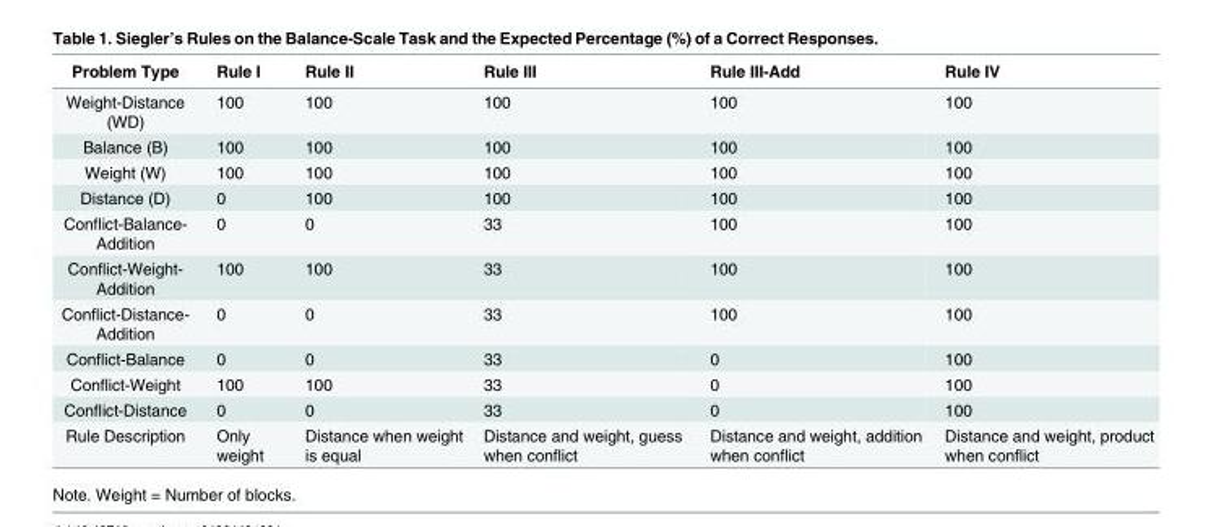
<table><thead><tr><td>Problem Type</td><td>Rule I</td><td>Rule II</td><td>Rule III</td><td>Rule III-Add</td><td>Rule IV</td></tr></thead><tbody><tr><td>Weight-Distance (WD)</td><td>100</td><td>100</td><td>100</td><td>100</td><td>100</td></tr><tr><td>Balance (B)</td><td>100</td><td>100</td><td>100</td><td>100</td><td>100</td></tr><tr><td>Weight (W)</td><td>100</td><td>100</td><td>100</td><td>100</td><td>100</td></tr><tr><td>Distance (D)</td><td>0</td><td>100</td><td>100</td><td>100</td><td>100</td></tr><tr><td>Conflict-Balance- Addition</td><td>0</td><td>0</td><td>33</td><td>100</td><td>100</td></tr><tr><td>Conflict-Weight- Addition</td><td>100</td><td>100</td><td>33</td><td>100</td><td>100</td></tr><tr><td>Conflict-Distance- Addition</td><td>0</td><td>0</td><td>33</td><td>100</td><td>100</td></tr><tr><td>Conflict-Balance</td><td>0</td><td>0</td><td>33</td><td>0</td><td>100</td></tr><tr><td>Conflict-Weight</td><td>100</td><td>100</td><td>33</td><td>0</td><td>100</td></tr><tr><td>Conflict-Distance</td><td>0</td><td>0</td><td>33</td><td>0</td><td>100</td></tr><tr><td>Rule Description</td><td>Only weight</td><td>Distance when weight is equal</td><td>Distance and weight, guess when conflict</td><td>Distance and weight, addition when conflict</td><td>Distance and weight, product when conflict</td></tr></tbody></table>